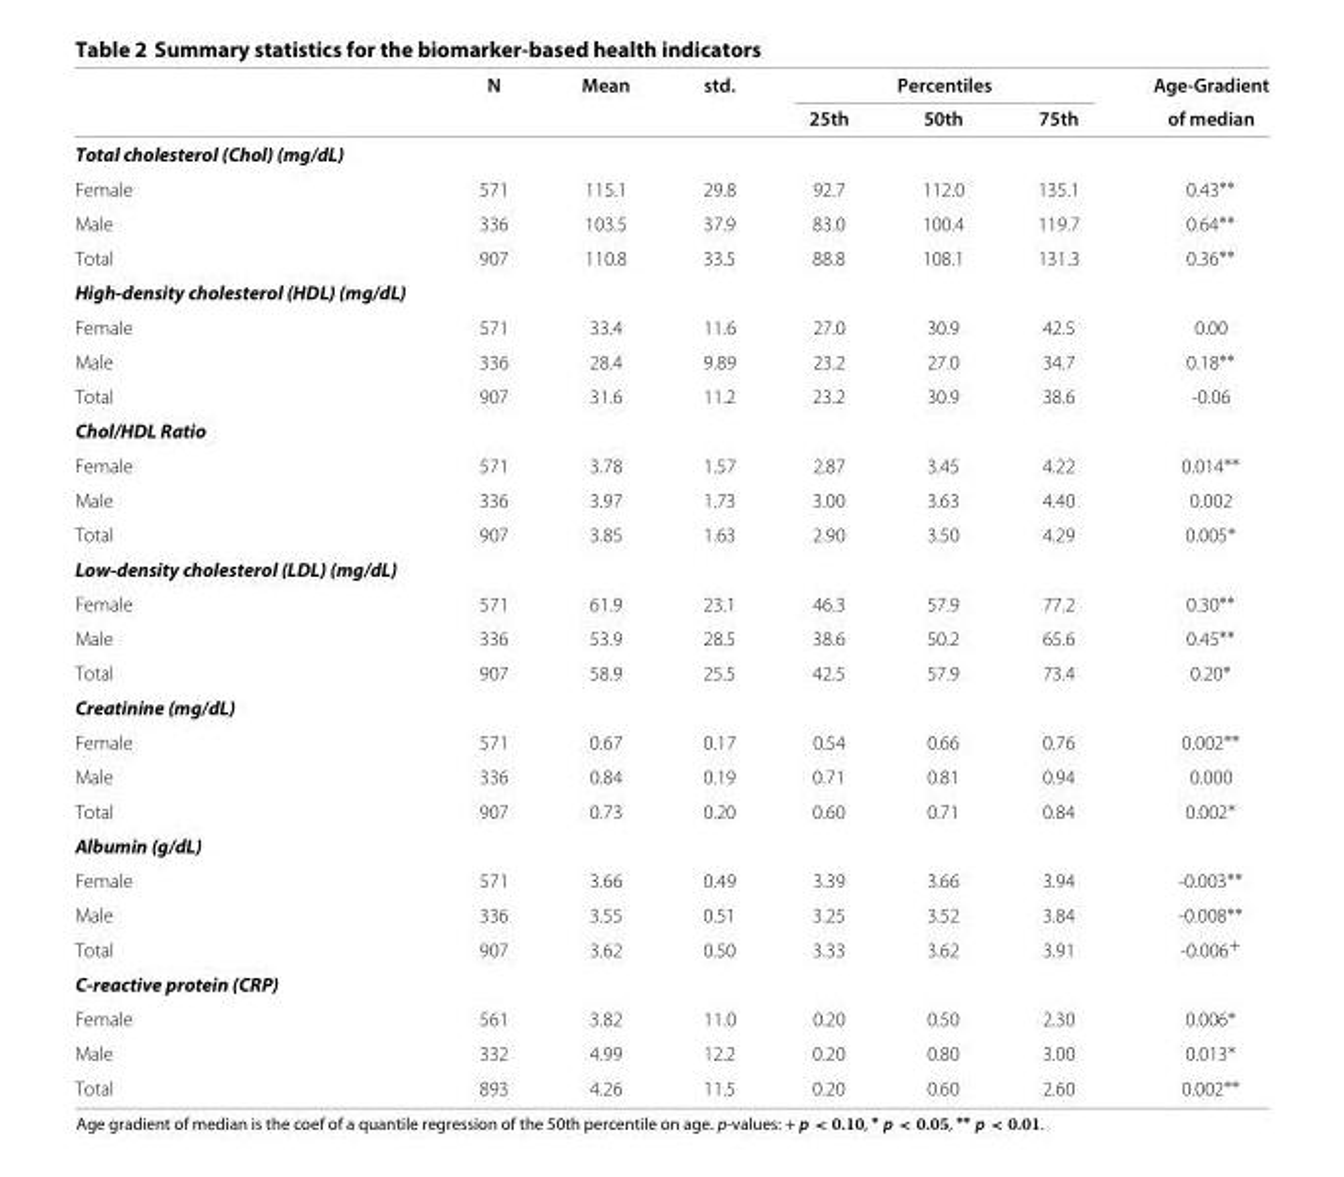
<table><thead><tr><td rowspan="2"></td><td rowspan="2">N</td><td rowspan="2">Mean</td><td rowspan="2">std.</td><td colspan="3">Percentiles</td><td rowspan="2">Age-Gradient of median</td></tr><tr><td>25th</td><td>50th</td><td>75th</td></tr></thead><tbody><tr><td colspan="8">Total cholesterol (Chol) (mg/dL)</td></tr><tr><td>Female</td><td>571</td><td>115.1</td><td>29.8</td><td>92.7</td><td>112.0</td><td>135.1</td><td>0.43∗∗</td></tr><tr><td>Male</td><td>336</td><td>103.5</td><td>37.9</td><td>83.0</td><td>100.4</td><td>119.7</td><td>0.64∗∗</td></tr><tr><td>Total</td><td>907</td><td>110.8</td><td>33.5</td><td>88.8</td><td>108.1</td><td>131.3</td><td>0.36∗∗</td></tr><tr><td colspan="8">High-density cholesterol (HDL) (mg/dL)</td></tr><tr><td>Female</td><td>571</td><td>33.4</td><td>11.6</td><td>27.0</td><td>30.9</td><td>42.5</td><td>0.00</td></tr><tr><td>Male</td><td>336</td><td>28.4</td><td>9.89</td><td>23.2</td><td>27.0</td><td>34.7</td><td>0.18∗∗</td></tr><tr><td>Total</td><td>907</td><td>31.6</td><td>11.2</td><td>23.2</td><td>30.9</td><td>38.6</td><td>-0.06</td></tr><tr><td colspan="8">Chol/HDL Ratio</td></tr><tr><td>Female</td><td>571</td><td>3.78</td><td>1.57</td><td>2.87</td><td>3.45</td><td>4.22</td><td>0.014∗∗</td></tr><tr><td>Male</td><td>336</td><td>3.97</td><td>1.73</td><td>3.00</td><td>3.63</td><td>4.40</td><td>0.002</td></tr><tr><td>Total</td><td>907</td><td>3.85</td><td>1.63</td><td>2.90</td><td>3.50</td><td>4.29</td><td>0.005∗</td></tr><tr><td colspan="8">Low-density cholesterol (LDL) (mg/dL)</td></tr><tr><td>Female</td><td>571</td><td>61.9</td><td>23.1</td><td>46.3</td><td>57.9</td><td>77.2</td><td>0.30∗∗</td></tr><tr><td>Male</td><td>336</td><td>53.9</td><td>28.5</td><td>38.6</td><td>50.2</td><td>65.6</td><td>0.45∗∗</td></tr><tr><td>Total</td><td>907</td><td>58.9</td><td>25.5</td><td>42.5</td><td>57.9</td><td>73.4</td><td>0.20∗</td></tr><tr><td colspan="8">Creatinine (mg/dL)</td></tr><tr><td>Female</td><td>571</td><td>0.67</td><td>0.17</td><td>0.54</td><td>0.66</td><td>0.76</td><td>0.002∗∗</td></tr><tr><td>Male</td><td>336</td><td>0.84</td><td>0.19</td><td>0.71</td><td>0.81</td><td>0.94</td><td>0.000</td></tr><tr><td>Total</td><td>907</td><td>0.73</td><td>0.20</td><td>0.60</td><td>0.71</td><td>0.84</td><td>0.002∗</td></tr><tr><td colspan="8">Albumin (g/dL)</td></tr><tr><td>Female</td><td>571</td><td>3.66</td><td>0.49</td><td>3.39</td><td>3.66</td><td>3.94</td><td>-0.003∗∗</td></tr><tr><td>Male</td><td>336</td><td>3.55</td><td>0.51</td><td>3.25</td><td>3.52</td><td>3.84</td><td>-0.008∗∗</td></tr><tr><td>Total</td><td>907</td><td>3.62</td><td>0.50</td><td>3.33</td><td>3.62</td><td>3.91</td><td>-0.006<sup>+</sup></td></tr><tr><td colspan="8">C-reactive protein (CRP)</td></tr><tr><td>Female</td><td>561</td><td>3.82</td><td>11.0</td><td>0.20</td><td>0.50</td><td>2.30</td><td>0.006∗</td></tr><tr><td>Male</td><td>332</td><td>4.99</td><td>12.2</td><td>0.20</td><td>0.80</td><td>3.00</td><td>0.013∗</td></tr><tr><td>Total</td><td>893</td><td>4.26</td><td>11.5</td><td>0.20</td><td>0.60</td><td>2.60</td><td>0.002∗∗</td></tr></tbody></table>